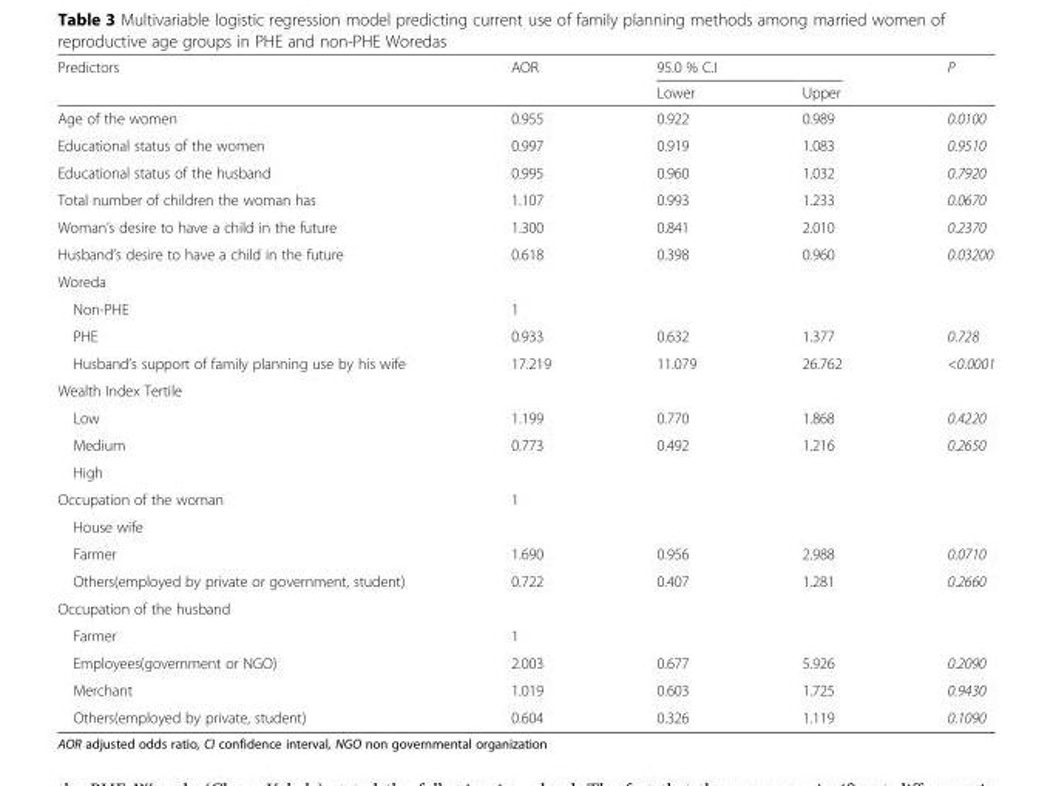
<table><thead><tr><td rowspan="2">Predictors</td><td rowspan="2">AOR</td><td colspan="2">95.0 % C.I</td><td rowspan="2">P</td></tr><tr><td>Lower</td><td>Upper</td></tr></thead><tbody><tr><td>Age of the women</td><td>0.955</td><td>0.922</td><td>0.989</td><td>0.0100</td></tr><tr><td>Educational status of the women</td><td>0.997</td><td>0.919</td><td>1.083</td><td>0.9510</td></tr><tr><td>Educational status of the husband</td><td>0.995</td><td>0.960</td><td>1.032</td><td>0.7920</td></tr><tr><td>Total number of children the woman has</td><td>1.107</td><td>0.993</td><td>1.233</td><td>0.0670</td></tr><tr><td>Woman’s desire to have a child in the future</td><td>1.300</td><td>0.841</td><td>2.010</td><td>0.2370</td></tr><tr><td>Husband’s desire to have a child in the future</td><td>0.618</td><td>0.398</td><td>0.960</td><td>0.03200</td></tr><tr><td colspan="5">Woreda</td></tr><tr><td>Non-PHE</td><td>1</td><td></td><td></td><td></td></tr><tr><td>PHE</td><td>0.933</td><td>0.632</td><td>1.377</td><td>0.728</td></tr><tr><td>Husband’s support of family planning use by his wife</td><td>17.219</td><td>11.079</td><td>26.762</td><td>&lt;0.0001</td></tr><tr><td colspan="5">Wealth Index Tertile</td></tr><tr><td>Low</td><td>1.199</td><td>0.770</td><td>1.868</td><td>0.4220</td></tr><tr><td>Medium</td><td>0.773</td><td>0.492</td><td>1.216</td><td>0.2650</td></tr><tr><td colspan="5">High</td></tr><tr><td>Occupation of the woman</td><td>1</td><td></td><td></td><td></td></tr><tr><td colspan="5">House wife</td></tr><tr><td>Farmer</td><td>1.690</td><td>0.956</td><td>2.988</td><td>0.0710</td></tr><tr><td>Others(employed by private or government, student)</td><td>0.722</td><td>0.407</td><td>1.281</td><td>0.2660</td></tr><tr><td colspan="5">Occupation of the husband</td></tr><tr><td>Farmer</td><td>1</td><td></td><td></td><td></td></tr><tr><td>Employees(government or NGO)</td><td>2.003</td><td>0.677</td><td>5.926</td><td>0.2090</td></tr><tr><td>Merchant</td><td>1.019</td><td>0.603</td><td>1.725</td><td>0.9430</td></tr><tr><td>Others(employed by private, student)</td><td>0.604</td><td>0.326</td><td>1.119</td><td>0.1090</td></tr></tbody></table>